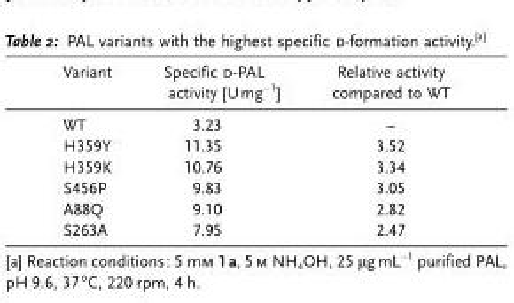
<table><thead><tr><td>Variant</td><td>Specific d-PAL activity [Umg<sup>−1</sup>]</td><td>Relative activity compared to WT</td></tr></thead><tbody><tr><td>WT</td><td>3.23</td><td>–</td></tr><tr><td>H359Y</td><td>11.35</td><td>3.52</td></tr><tr><td>H359K</td><td>10.76</td><td>3.34</td></tr><tr><td>S456P</td><td>9.83</td><td>3.05</td></tr><tr><td>A88Q</td><td>9.10</td><td>2.82</td></tr><tr><td>S263A</td><td>7.95</td><td>2.47</td></tr></tbody></table>